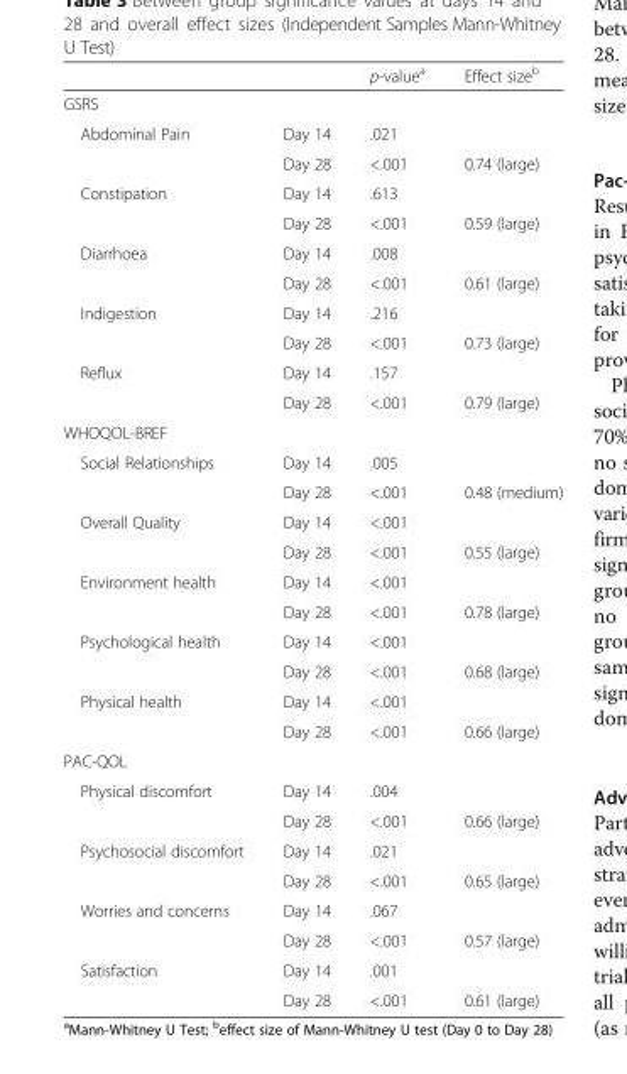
<table><thead><tr><td></td><td></td><td>p-value<sup>a</sup></td><td>Effect size<sup>b</sup></td></tr></thead><tbody><tr><td colspan="4">GSRS</td></tr><tr><td rowspan="2">Abdominal Pain</td><td>Day 14</td><td>.021</td><td></td></tr><tr><td>Day 28</td><td>&lt;.001</td><td>0.74 (large)</td></tr><tr><td rowspan="2">Constipation</td><td>Day 14</td><td>.613</td><td></td></tr><tr><td>Day 28</td><td>&lt;.001</td><td>0.59 (large)</td></tr><tr><td rowspan="2">Diarrhoea</td><td>Day 14</td><td>.008</td><td></td></tr><tr><td>Day 28</td><td>&lt;.001</td><td>0.61 (large)</td></tr><tr><td rowspan="2">Indigestion</td><td>Day 14</td><td>.216</td><td></td></tr><tr><td>Day 28</td><td>&lt;.001</td><td>0.73 (large)</td></tr><tr><td rowspan="2">Reflux</td><td>Day 14</td><td>.157</td><td></td></tr><tr><td>Day 28</td><td>&lt;.001</td><td>0.79 (large)</td></tr><tr><td colspan="4">WHOQOL-BREF</td></tr><tr><td rowspan="2">Social Relationships</td><td>Day 14</td><td>.005</td><td></td></tr><tr><td>Day 28</td><td>&lt;.001</td><td>0.48 (medium)</td></tr><tr><td rowspan="2">Overall Quality</td><td>Day 14</td><td>&lt;.001</td><td></td></tr><tr><td>Day 28</td><td>&lt;.001</td><td>0.55 (large)</td></tr><tr><td rowspan="2">Environment health</td><td>Day 14</td><td>&lt;.001</td><td></td></tr><tr><td>Day 28</td><td>&lt;.001</td><td>0.78 (large)</td></tr><tr><td rowspan="2">Psychological health</td><td>Day 14</td><td>&lt;.001</td><td></td></tr><tr><td>Day 28</td><td>&lt;.001</td><td>0.68 (large)</td></tr><tr><td rowspan="2">Physical health</td><td>Day 14</td><td>&lt;.001</td><td></td></tr><tr><td>Day 28</td><td>&lt;.001</td><td>0.66 (large)</td></tr><tr><td colspan="4">PAC-QOL</td></tr><tr><td rowspan="2">Physical discomfort</td><td>Day 14</td><td>.004</td><td></td></tr><tr><td>Day 28</td><td>&lt;.001</td><td>0.66 (large)</td></tr><tr><td rowspan="2">Psychosocial discomfort</td><td>Day 14</td><td>.021</td><td></td></tr><tr><td>Day 28</td><td>&lt;.001</td><td>0.65 (large)</td></tr><tr><td rowspan="2">Worries and concerns</td><td>Day 14</td><td>.067</td><td></td></tr><tr><td>Day 28</td><td>&lt;.001</td><td>0.57 (large)</td></tr><tr><td rowspan="2">Satisfaction</td><td>Day 14</td><td>.001</td><td></td></tr><tr><td>Day 28</td><td>&lt;.001</td><td>0.61 (large)</td></tr></tbody></table>